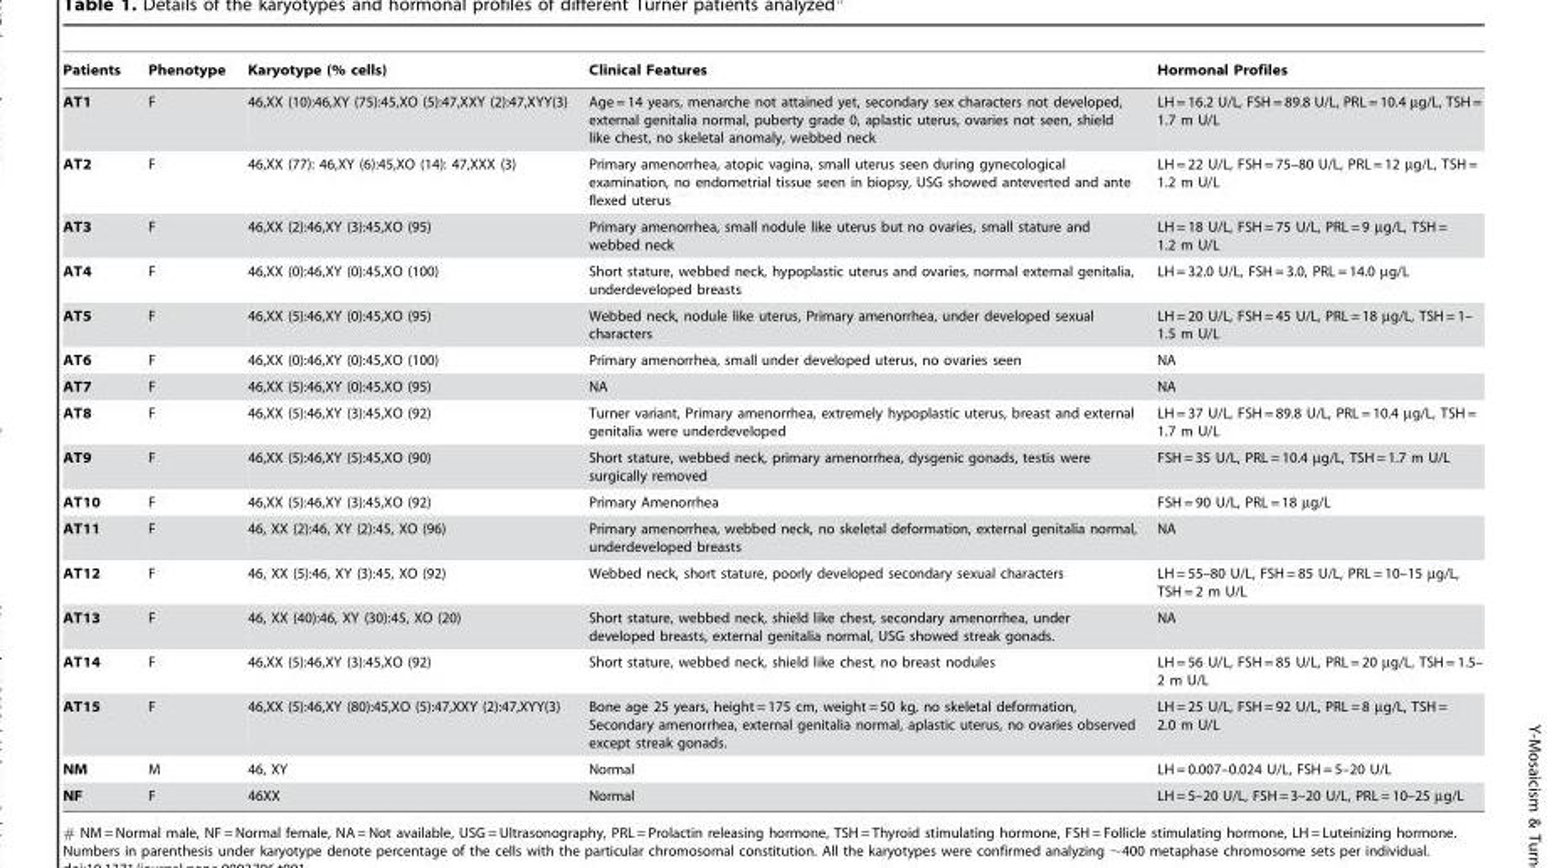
<table><thead><tr><td>Patients</td><td>Phenotype</td><td>Karyotype (% cells)</td><td>Clinical Features</td><td>Hormonal Profiles</td></tr></thead><tbody><tr><td>AT1</td><td>F</td><td>46,XX (10):46,XY (75):45,XO (5):47,XXY (2):47,XYY(3)</td><td>Age = 14 years, menarche not attained yet, secondary sex characters not developed, external genitalia normal, puberty grade 0, aplastic uterus, ovaries not seen, shield like chest, no skeletal anomaly, webbed neck</td><td>LH = 16.2 U/L, FSH = 89.8 U/L, PRL = 10.4 µg/L, TSH = 1.7 m U/L</td></tr><tr><td>AT2</td><td>F</td><td>46,XX (77): 46,XY (6):45,XO (14): 47,XXX (3)</td><td>Primary amenorrhea, atopic vagina, small uterus seen during gynecological examination, no endometrial tissue seen in biopsy, USG showed anteverted and ante flexed uterus</td><td>LH = 22 U/L, FSH = 75–80 U/L, PRL = 12 µg/L, TSH = 1.2 m U/L</td></tr><tr><td>AT3</td><td>F</td><td>46,XX (2):46,XY (3):45,XO (95)</td><td>Primary amenorrhea, small nodule like uterus but no ovaries, small stature and webbed neck</td><td>LH = 18 U/L, FSH = 75 U/L, PRL = 9 µg/L, TSH = 1.2 m U/L</td></tr><tr><td>AT4</td><td>F</td><td>46,XX (0):46,XY (0):45,XO (100)</td><td>Short stature, webbed neck, hypoplastic uterus and ovaries, normal external genitalia, underdeveloped breasts</td><td>LH = 32.0 U/L, FSH = 3.0, PRL = 14.0 µg/L</td></tr><tr><td>AT5</td><td>F</td><td>46,XX (5):46,XY (0):45,XO (95)</td><td>Webbed neck, nodule like uterus, Primary amenorrhea, under developed sexual characters</td><td>LH = 20 U/L, FSH = 45 U/L, PRL = 18 µg/L, TSH = 1– 1.5 m U/L</td></tr><tr><td>AT6</td><td>F</td><td>46,XX (0):46,XY (0):45,XO (100)</td><td>Primary amenorrhea, small under developed uterus, no ovaries seen</td><td>NA</td></tr><tr><td>AT7</td><td>F</td><td>46,XX (5):46,XY (0):45,XO (95)</td><td>NA</td><td>NA</td></tr><tr><td>AT8</td><td>F</td><td>46,XX (5):46,XY (3):45,XO (92)</td><td>Turner variant, Primary amenorrhea, extremely hypoplastic uterus, breast and external genitalia were underdeveloped</td><td>LH = 37 U/L, FSH = 89.8 U/L, PRL = 10.4 µg/L, TSH = 1.7 m U/L</td></tr><tr><td>AT9</td><td>F</td><td>46,XX (5):46,XY (5):45,XO (90)</td><td>Short stature, webbed neck, primary amenorrhea, dysgenic gonads, testis were surgically removed</td><td>FSH = 35 U/L, PRL = 10.4 µg/L, TSH = 1.7 m U/L</td></tr><tr><td>AT10</td><td>F</td><td>46,XX (5):46,XY (3):45,XO (92)</td><td>Primary Amenorrhea</td><td>FSH = 90 U/L, PRL = 18 µg/L</td></tr><tr><td>AT11</td><td>F</td><td>46, XX (2):46, XY (2):45, XO (96)</td><td>Primary amenorrhea, webbed neck, no skeletal deformation, external genitalia normal, underdeveloped breasts</td><td>NA</td></tr><tr><td>AT12</td><td>F</td><td>46, XX (5):46, XY (3):45, XO (92)</td><td>Webbed neck, short stature, poorly developed secondary sexual characters</td><td>LH = 55–80 U/L, FSH = 85 U/L, PRL = 10–15 µg/L, TSH = 2 m U/L</td></tr><tr><td>AT13</td><td>F</td><td>46, XX (40):46, XY (30):45, XO (20)</td><td>Short stature, webbed neck, shield like chest, secondary amenorrhea, under developed breasts, external genitalia normal, USG showed streak gonads.</td><td>NA</td></tr><tr><td>AT14</td><td>F</td><td>46,XX (5):46,XY (3):45,XO (92)</td><td>Short stature, webbed neck, shield like chest, no breast nodules</td><td>LH = 56 U/L, FSH = 85 U/L, PRL = 20 µg/L, TSH = 1.5– 2 m U/L</td></tr><tr><td>AT15</td><td>F</td><td>46,XX (5):46,XY (80):45,XO (5):47,XXY (2):47,XYY(3)</td><td>Bone age 25 years, height = 175 cm, weight = 50 kg, no skeletal deformation, Secondary amenorrhea, external genitalia normal, aplastic uterus, no ovaries observed except streak gonads.</td><td>LH = 25 U/L, FSH = 92 U/L, PRL = 8 µg/L, TSH = 2.0 m U/L</td></tr><tr><td>NM</td><td>M</td><td>46, XY</td><td>Normal</td><td>LH = 0.007–0.024 U/L, FSH = 5–20 U/L</td></tr><tr><td>NF</td><td>F</td><td>46XX</td><td>Normal</td><td>LH = 5–20 U/L, FSH = 3–20 U/L, PRL = 10–25 µg/L</td></tr></tbody></table>